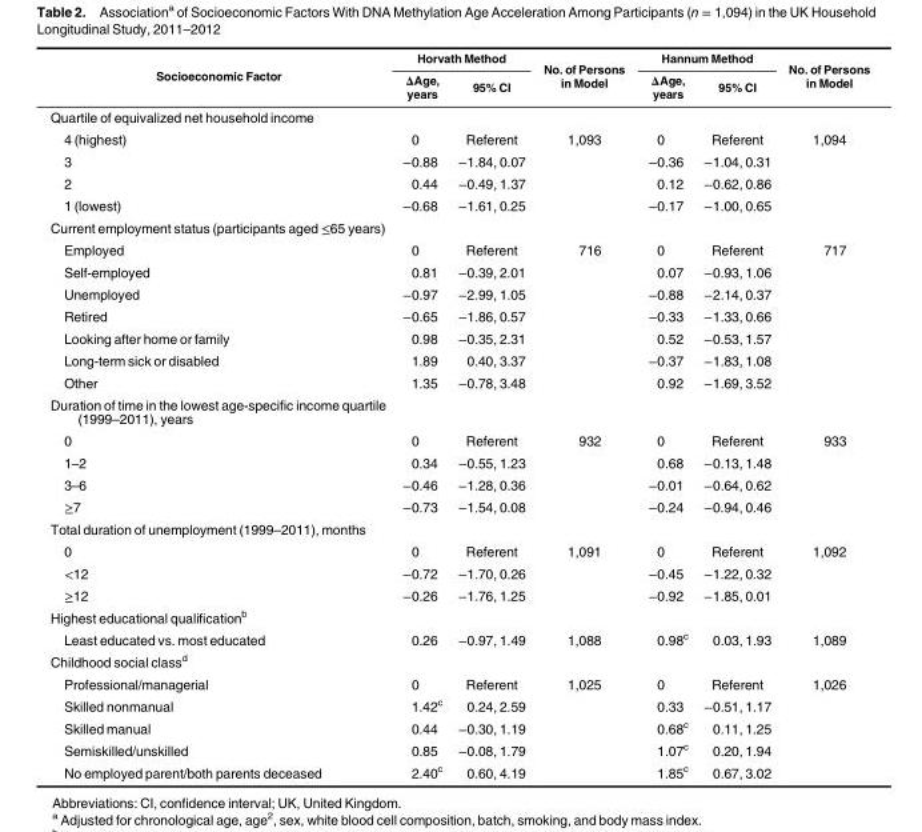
<table><thead><tr><td rowspan="2">Socioeconomic Factor</td><td colspan="2">Horvath Method</td><td rowspan="2">No. of Persons in Model</td><td colspan="2">Hannum Method</td><td rowspan="2">No. of Persons in Model</td></tr><tr><td>ΔAge, years</td><td>95% CI</td><td>ΔAge, years</td><td>95% CI</td></tr></thead><tbody><tr><td colspan="7">Quartile of equivalized net household income</td></tr><tr><td>4 (highest)</td><td>0</td><td>Referent</td><td>1,093</td><td>0</td><td>Referent</td><td>1,094</td></tr><tr><td>3</td><td>−0.88</td><td>−1.84, 0.07</td><td></td><td>−0.36</td><td>−1.04, 0.31</td><td></td></tr><tr><td>2</td><td>0.44</td><td>−0.49, 1.37</td><td></td><td>0.12</td><td>−0.62, 0.86</td><td></td></tr><tr><td>1 (lowest)</td><td>−0.68</td><td>−1.61, 0.25</td><td></td><td>−0.17</td><td>−1.00, 0.65</td><td></td></tr><tr><td colspan="7">Current employment status (participants aged ≤65 years)</td></tr><tr><td>Employed</td><td>0</td><td>Referent</td><td>716</td><td>0</td><td>Referent</td><td>717</td></tr><tr><td>Self-employed</td><td>0.81</td><td>−0.39, 2.01</td><td></td><td>0.07</td><td>−0.93, 1.06</td><td></td></tr><tr><td>Unemployed</td><td>−0.97</td><td>−2.99, 1.05</td><td></td><td>−0.88</td><td>−2.14, 0.37</td><td></td></tr><tr><td>Retired</td><td>−0.65</td><td>−1.86, 0.57</td><td></td><td>−0.33</td><td>−1.33, 0.66</td><td></td></tr><tr><td>Looking after home or family</td><td>0.98</td><td>−0.35, 2.31</td><td></td><td>0.52</td><td>−0.53, 1.57</td><td></td></tr><tr><td>Long-term sick or disabled</td><td>1.89</td><td>0.40, 3.37</td><td></td><td>−0.37</td><td>−1.83, 1.08</td><td></td></tr><tr><td>Other</td><td>1.35</td><td>−0.78, 3.48</td><td></td><td>0.92</td><td>−1.69, 3.52</td><td></td></tr><tr><td colspan="7">Duration of time in the lowest age-specific income quartile (1999–2011), years</td></tr><tr><td>0</td><td>0</td><td>Referent</td><td>932</td><td>0</td><td>Referent</td><td>933</td></tr><tr><td>1–2</td><td>0.34</td><td>−0.55, 1.23</td><td></td><td>0.68</td><td>−0.13, 1.48</td><td></td></tr><tr><td>3–6</td><td>−0.46</td><td>−1.28, 0.36</td><td></td><td>−0.01</td><td>−0.64, 0.62</td><td></td></tr><tr><td>≥7</td><td>−0.73</td><td>−1.54, 0.08</td><td></td><td>−0.24</td><td>−0.94, 0.46</td><td></td></tr><tr><td colspan="7">Total duration of unemployment (1999–2011), months</td></tr><tr><td>0</td><td>0</td><td>Referent</td><td>1,091</td><td>0</td><td>Referent</td><td>1,092</td></tr><tr><td>&lt;12</td><td>−0.72</td><td>−1.70, 0.26</td><td></td><td>−0.45</td><td>−1.22, 0.32</td><td></td></tr><tr><td>≥12</td><td>−0.26</td><td>−1.76, 1.25</td><td></td><td>−0.92</td><td>−1.85, 0.01</td><td></td></tr><tr><td colspan="7">Highest educational qualification<sup>b</sup></td></tr><tr><td>Least educated vs. most educated</td><td>0.26</td><td>−0.97, 1.49</td><td>1,088</td><td>0.98<sup>c</sup></td><td>0.03, 1.93</td><td>1,089</td></tr><tr><td colspan="7">Childhood social class<sup>d</sup></td></tr><tr><td>Professional/managerial</td><td>0</td><td>Referent</td><td>1,025</td><td>0</td><td>Referent</td><td>1,026</td></tr><tr><td>Skilled nonmanual</td><td>1.42<sup>c</sup></td><td>0.24, 2.59</td><td></td><td>0.33</td><td>−0.51, 1.17</td><td></td></tr><tr><td>Skilled manual</td><td>0.44</td><td>−0.30, 1.19</td><td></td><td>0.68<sup>c</sup></td><td>0.11, 1.25</td><td></td></tr><tr><td>Semiskilled/unskilled</td><td>0.85</td><td>−0.08, 1.79</td><td></td><td>1.07<sup>c</sup></td><td>0.20, 1.94</td><td></td></tr><tr><td>No employed parent/both parents deceased</td><td>2.40<sup>c</sup></td><td>0.60, 4.19</td><td></td><td>1.85<sup>c</sup></td><td>0.67, 3.02</td><td></td></tr></tbody></table>